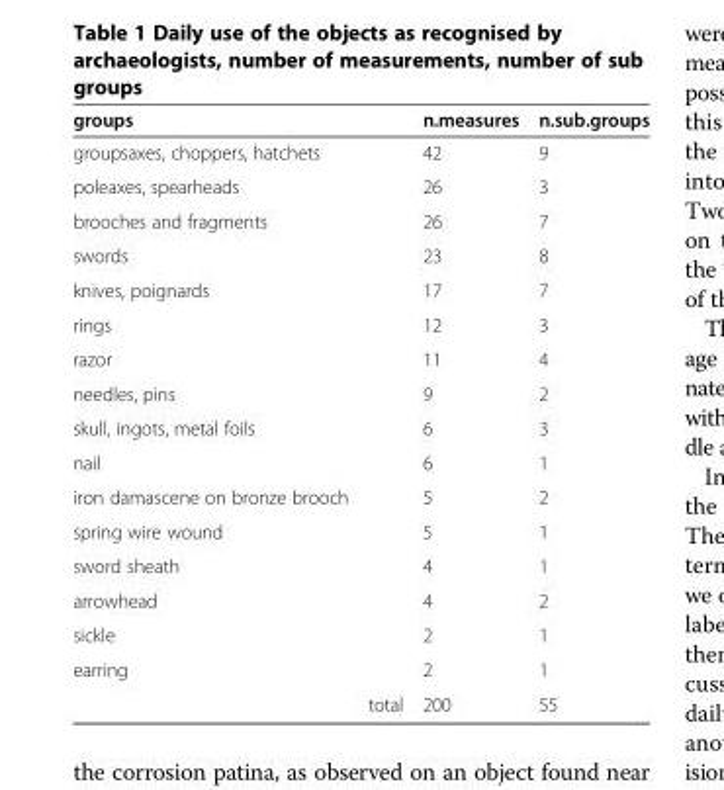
<table><thead><tr><td>groups groups</td><td></td><td>n.measures</td><td>n.sub.groups</td></tr></thead><tbody><tr><td>groupsaxes, choppers, hatchets</td><td></td><td>42</td><td>9</td></tr><tr><td>poleaxes, spearheads</td><td></td><td>26</td><td>3</td></tr><tr><td>brooches and fragments</td><td></td><td>26</td><td>7</td></tr><tr><td>swords</td><td></td><td>23</td><td>8</td></tr><tr><td>knives, poignards</td><td></td><td>17</td><td>7</td></tr><tr><td>rings</td><td></td><td>12</td><td>3</td></tr><tr><td>razor</td><td></td><td>11</td><td>4</td></tr><tr><td>needles, pins</td><td></td><td>9</td><td>2</td></tr><tr><td>skull, ingots, metal foils</td><td></td><td>6</td><td>3</td></tr><tr><td>nail</td><td></td><td>6</td><td>1</td></tr><tr><td>iron damascene on bronze brooch</td><td></td><td>5</td><td>2</td></tr><tr><td>spring wire wound</td><td></td><td>5</td><td>1</td></tr><tr><td>sword sheath</td><td></td><td>4</td><td>1</td></tr><tr><td>arrowhead</td><td></td><td>4</td><td>2</td></tr><tr><td>sickle</td><td></td><td>2</td><td>1</td></tr><tr><td rowspan="2">earring</td><td></td><td>2</td><td>1</td></tr><tr><td>total</td><td>200</td><td>55</td></tr></tbody></table>